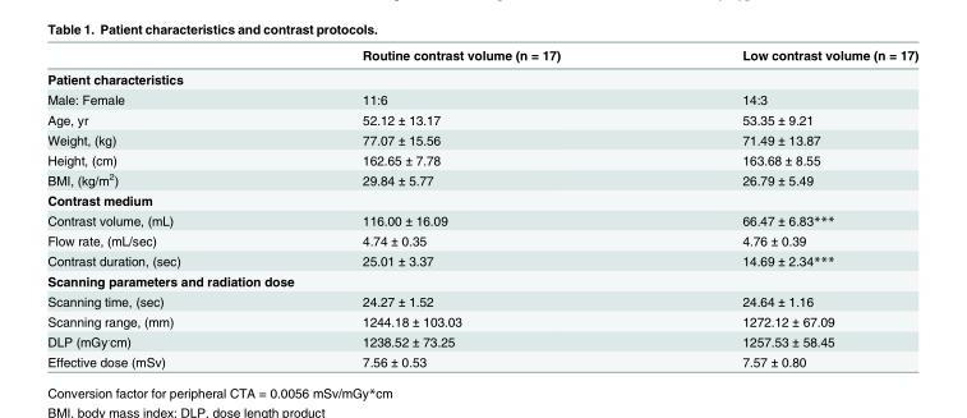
<table><thead><tr><td></td><td>Routine contrast volume (n = 17)</td><td>Low contrast volume (n = 17)</td></tr></thead><tbody><tr><td colspan="3">Patient characteristics</td></tr><tr><td>Male: Female</td><td>11:6</td><td>14:3</td></tr><tr><td>Age, yr</td><td>52.12 ± 13.17</td><td>53.35 ± 9.21</td></tr><tr><td>Weight, (kg)</td><td>77.07 ± 15.56</td><td>71.49 ± 13.87</td></tr><tr><td>Height, (cm)</td><td>162.65 ± 7.78</td><td>163.68 ± 8.55</td></tr><tr><td>BMI, (kg/m<sup>2</sup>)</td><td>29.84 ± 5.77</td><td>26.79 ± 5.49</td></tr><tr><td colspan="3">Contrast medium</td></tr><tr><td>Contrast volume, (mL)</td><td>116.00 ± 16.09</td><td>66.47 ± 6.83***</td></tr><tr><td>Flow rate, (mL/sec)</td><td>4.74 ± 0.35</td><td>4.76 ± 0.39</td></tr><tr><td>Contrast duration, (sec)</td><td>25.01 ± 3.37</td><td>14.69 ± 2.34***</td></tr><tr><td colspan="3">Scanning parameters and radiation dose</td></tr><tr><td>Scanning time, (sec)</td><td>24.27 ± 1.52</td><td>24.64 ± 1.16</td></tr><tr><td>Scanning range, (mm)</td><td>1244.18 ± 103.03</td><td>1272.12 ± 67.09</td></tr><tr><td>DLP (mGy<sup>.</sup>cm)</td><td>1238.52 ± 73.25</td><td>1257.53 ± 58.45</td></tr><tr><td>Effective dose (mSv)</td><td>7.56 ± 0.53</td><td>7.57 ± 0.80</td></tr></tbody></table>